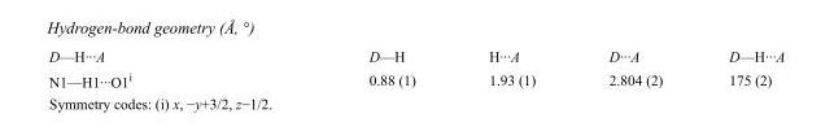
<table><tbody><tr><td>D—H···A</td><td>D—H</td><td>H···A</td><td>D···A</td><td>D—H···A</td></tr><tr><td>N1—H1···O1<sup>i</sup></td><td>0.88 (1)</td><td>1.93 (1)</td><td>2.804 (2)</td><td>175 (2)</td></tr></tbody></table>